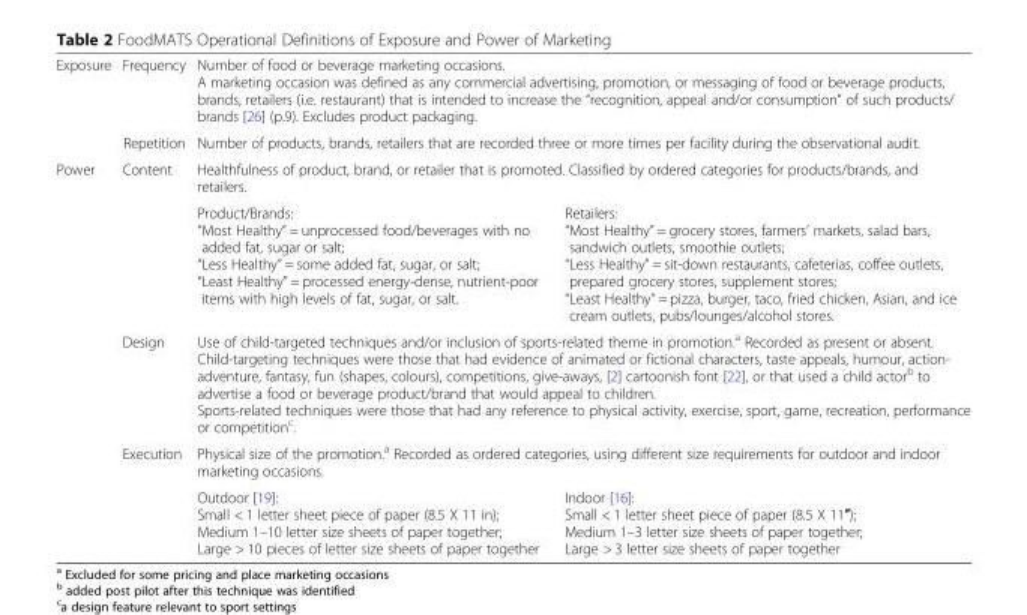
<table><tbody><tr><td rowspan="2">Exposure</td><td>Frequency</td><td colspan="2">Number of food or beverage marketing occasions. A marketing occasion was defined as any commercial advertising, promotion, or messaging of food or beverage products, brands, retailers (i.e. restaurant) that is intended to increase the “recognition, appeal and/or consumption” of such products/ brands [26] (p.9). Excludes product packaging.</td></tr><tr><td>Repetition</td><td colspan="2">Number of products, brands, retailers that are recorded three or more times per facility during the observational audit.</td></tr><tr><td rowspan="5">Power</td><td rowspan="2">Content</td><td colspan="2">Healthfulness of product, brand, or retailer that is promoted. Classified by ordered categories for products/brands, and retailers.</td></tr><tr><td>Product/Brands: “Most Healthy” = unprocessed food/beverages with no added fat, sugar or salt; “Less Healthy” = some added fat, sugar, or salt; “Least Healthy” = processed energy-dense, nutrient-poor items with high levels of fat, sugar, or salt.</td><td>Retailers: “Most Healthy” = grocery stores, farmers’ markets, salad bars, sandwich outlets, smoothie outlets; “Less Healthy” = sit-down restaurants, cafeterias, coffee outlets, prepared grocery stores, supplement stores; “Least Healthy” = pizza, burger, taco, fried chicken, Asian, and ice cream outlets, pubs/lounges/alcohol stores.</td></tr><tr><td>Design</td><td colspan="2">Use of child-targeted techniques and/or inclusion of sports-related theme in promotion.<sup>a</sup> Recorded as present or absent. Child-targeting techniques were those that had evidence of animated or fictional characters, taste appeals, humour, action- adventure, fantasy, fun (shapes, colours), competitions, give-aways, [2] cartoonish font [22], or that used a child actor<sup>b</sup> to advertise a food or beverage product/brand that would appeal to children. Sports-related techniques were those that had any reference to physical activity, exercise, sport, game, recreation, performance or competition<sup>c</sup>.</td></tr><tr><td rowspan="2">Execution</td><td colspan="2">Physical size of the promotion.<sup>a</sup> Recorded as ordered categories, using different size requirements for outdoor and indoor marketing occasions.</td></tr><tr><td>Outdoor [19]: Small &lt; 1 letter sheet piece of paper (8.5 X 11 in); Medium 1–10 letter size sheets of paper together; Large &gt; 10 pieces of letter size sheets of paper together</td><td>Indoor [16]: Small &lt; 1 letter sheet piece of paper (8.5 X 11″); Medium 1–3 letter size sheets of paper together; Large &gt; 3 letter size sheets of paper together</td></tr></tbody></table>